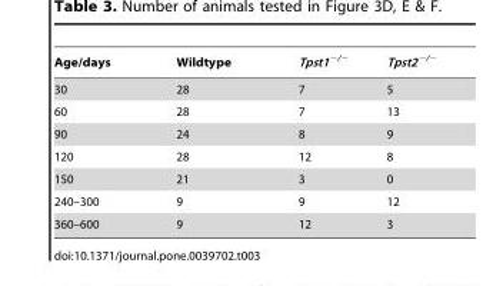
<table><thead><tr><td>Age/days</td><td>Wildtype</td><td>Tpst1<sup>−/−</sup></td><td>Tpst2<sup>−/−</sup></td></tr></thead><tbody><tr><td>30</td><td>28</td><td>7</td><td>5</td></tr><tr><td>60</td><td>28</td><td>7</td><td>13</td></tr><tr><td>90</td><td>24</td><td>8</td><td>9</td></tr><tr><td>120</td><td>28</td><td>12</td><td>8</td></tr><tr><td>150</td><td>21</td><td>3</td><td>0</td></tr><tr><td>240–300</td><td>9</td><td>9</td><td>12</td></tr><tr><td>360–600</td><td>9</td><td>12</td><td>3</td></tr></tbody></table>